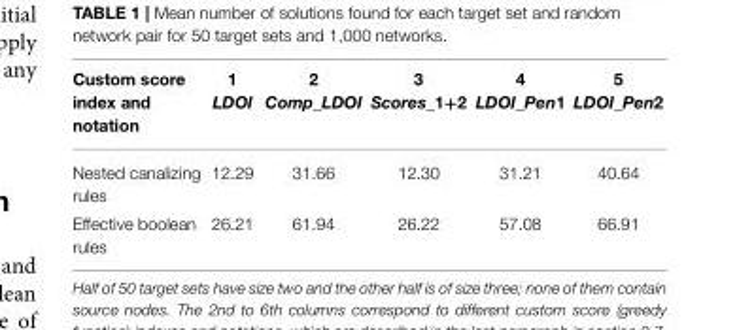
<table><thead><tr><td>Custom score index and notation</td><td>1 LDOI</td><td>2 Comp_LDOI</td><td>3 Scores_1+2</td><td>4 LDOI_Pen1</td><td>5 LDOI_Pen2</td></tr></thead><tbody><tr><td>Nested canalizing rules</td><td>12.29</td><td>31.66</td><td>12.30</td><td>31.21</td><td>40.64</td></tr><tr><td>Effective boolean rules</td><td>26.21</td><td>61.94</td><td>26.22</td><td>57.08</td><td>66.91</td></tr></tbody></table>